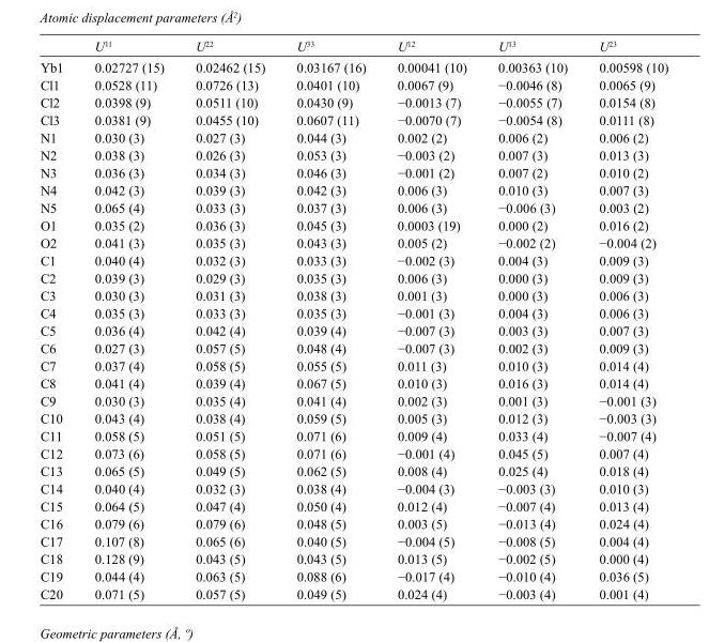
<table><thead><tr><td></td><td>U<sup>11</sup></td><td>U<sup>22</sup></td><td>U<sup>33</sup></td><td>U<sup>12</sup></td><td>U<sup>13</sup></td><td>U<sup>23</sup></td></tr></thead><tbody><tr><td>Yb1</td><td>0.02727 (15)</td><td>0.02462 (15)</td><td>0.03167 (16)</td><td>0.00041 (10)</td><td>0.00363 (10)</td><td>0.00598 (10)</td></tr><tr><td>Cl1</td><td>0.0528 (11)</td><td>0.0726 (13)</td><td>0.0401 (10)</td><td>0.0067 (9)</td><td>−0.0046 (8)</td><td>0.0065 (9)</td></tr><tr><td>Cl2</td><td>0.0398 (9)</td><td>0.0511 (10)</td><td>0.0430 (9)</td><td>−0.0013 (7)</td><td>−0.0055 (7)</td><td>0.0154 (8)</td></tr><tr><td>Cl3</td><td>0.0381 (9)</td><td>0.0455 (10)</td><td>0.0607 (11)</td><td>−0.0070 (7)</td><td>−0.0054 (8)</td><td>0.0111 (8)</td></tr><tr><td>N1</td><td>0.030 (3)</td><td>0.027 (3)</td><td>0.044 (3)</td><td>0.002 (2)</td><td>0.006 (2)</td><td>0.006 (2)</td></tr><tr><td>N2</td><td>0.038 (3)</td><td>0.026 (3)</td><td>0.053 (3)</td><td>−0.003 (2)</td><td>0.007 (3)</td><td>0.013 (3)</td></tr><tr><td>N3</td><td>0.036 (3)</td><td>0.034 (3)</td><td>0.046 (3)</td><td>−0.001 (2)</td><td>0.007 (2)</td><td>0.010 (2)</td></tr><tr><td>N4</td><td>0.042 (3)</td><td>0.039 (3)</td><td>0.042 (3)</td><td>0.006 (3)</td><td>0.010 (3)</td><td>0.007 (3)</td></tr><tr><td>N5</td><td>0.065 (4)</td><td>0.033 (3)</td><td>0.037 (3)</td><td>0.006 (3)</td><td>−0.006 (3)</td><td>0.003 (2)</td></tr><tr><td>O1</td><td>0.035 (2)</td><td>0.036 (3)</td><td>0.045 (3)</td><td>0.0003 (19)</td><td>0.000 (2)</td><td>0.016 (2)</td></tr><tr><td>O2</td><td>0.041 (3)</td><td>0.035 (3)</td><td>0.043 (3)</td><td>0.005 (2)</td><td>−0.002 (2)</td><td>−0.004 (2)</td></tr><tr><td>C1</td><td>0.040 (4)</td><td>0.032 (3)</td><td>0.033 (3)</td><td>−0.002 (3)</td><td>0.004 (3)</td><td>0.009 (3)</td></tr><tr><td>C2</td><td>0.039 (3)</td><td>0.029 (3)</td><td>0.035 (3)</td><td>0.006 (3)</td><td>0.000 (3)</td><td>0.009 (3)</td></tr><tr><td>C3</td><td>0.030 (3)</td><td>0.031 (3)</td><td>0.038 (3)</td><td>0.001 (3)</td><td>0.000 (3)</td><td>0.006 (3)</td></tr><tr><td>C4</td><td>0.035 (3)</td><td>0.033 (3)</td><td>0.035 (3)</td><td>−0.001 (3)</td><td>0.004 (3)</td><td>0.006 (3)</td></tr><tr><td>C5</td><td>0.036 (4)</td><td>0.042 (4)</td><td>0.039 (4)</td><td>−0.007 (3)</td><td>0.003 (3)</td><td>0.007 (3)</td></tr><tr><td>C6</td><td>0.027 (3)</td><td>0.057 (5)</td><td>0.048 (4)</td><td>−0.007 (3)</td><td>0.002 (3)</td><td>0.009 (3)</td></tr><tr><td>C7</td><td>0.037 (4)</td><td>0.058 (5)</td><td>0.055 (5)</td><td>0.011 (3)</td><td>0.010 (3)</td><td>0.014 (4)</td></tr><tr><td>C8</td><td>0.041 (4)</td><td>0.039 (4)</td><td>0.067 (5)</td><td>0.010 (3)</td><td>0.016 (3)</td><td>0.014 (4)</td></tr><tr><td>C9</td><td>0.030 (3)</td><td>0.035 (4)</td><td>0.041 (4)</td><td>0.002 (3)</td><td>0.001 (3)</td><td>−0.001 (3)</td></tr><tr><td>C10</td><td>0.043 (4)</td><td>0.038 (4)</td><td>0.059 (5)</td><td>0.005 (3)</td><td>0.012 (3)</td><td>−0.003 (3)</td></tr><tr><td>C11</td><td>0.058 (5)</td><td>0.051 (5)</td><td>0.071 (6)</td><td>0.009 (4)</td><td>0.033 (4)</td><td>−0.007 (4)</td></tr><tr><td>C12</td><td>0.073 (6)</td><td>0.058 (5)</td><td>0.071 (6)</td><td>−0.001 (4)</td><td>0.045 (5)</td><td>0.007 (4)</td></tr><tr><td>C13</td><td>0.065 (5)</td><td>0.049 (5)</td><td>0.062 (5)</td><td>0.008 (4)</td><td>0.025 (4)</td><td>0.018 (4)</td></tr><tr><td>C14</td><td>0.040 (4)</td><td>0.032 (3)</td><td>0.038 (4)</td><td>−0.004 (3)</td><td>−0.003 (3)</td><td>0.010 (3)</td></tr><tr><td>C15</td><td>0.064 (5)</td><td>0.047 (4)</td><td>0.050 (4)</td><td>0.012 (4)</td><td>−0.007 (4)</td><td>0.013 (4)</td></tr><tr><td>C16</td><td>0.079 (6)</td><td>0.079 (6)</td><td>0.048 (5)</td><td>0.003 (5)</td><td>−0.013 (4)</td><td>0.024 (4)</td></tr><tr><td>C17</td><td>0.107 (8)</td><td>0.065 (6)</td><td>0.040 (5)</td><td>−0.004 (5)</td><td>−0.008 (5)</td><td>0.004 (4)</td></tr><tr><td>C18</td><td>0.128 (9)</td><td>0.043 (5)</td><td>0.043 (5)</td><td>0.013 (5)</td><td>−0.002 (5)</td><td>0.000 (4)</td></tr><tr><td>C19</td><td>0.044 (4)</td><td>0.063 (5)</td><td>0.088 (6)</td><td>−0.017 (4)</td><td>−0.010 (4)</td><td>0.036 (5)</td></tr><tr><td>C20</td><td>0.071 (5)</td><td>0.057 (5)</td><td>0.049 (5)</td><td>0.024 (4)</td><td>−0.003 (4)</td><td>0.001 (4)</td></tr></tbody></table>